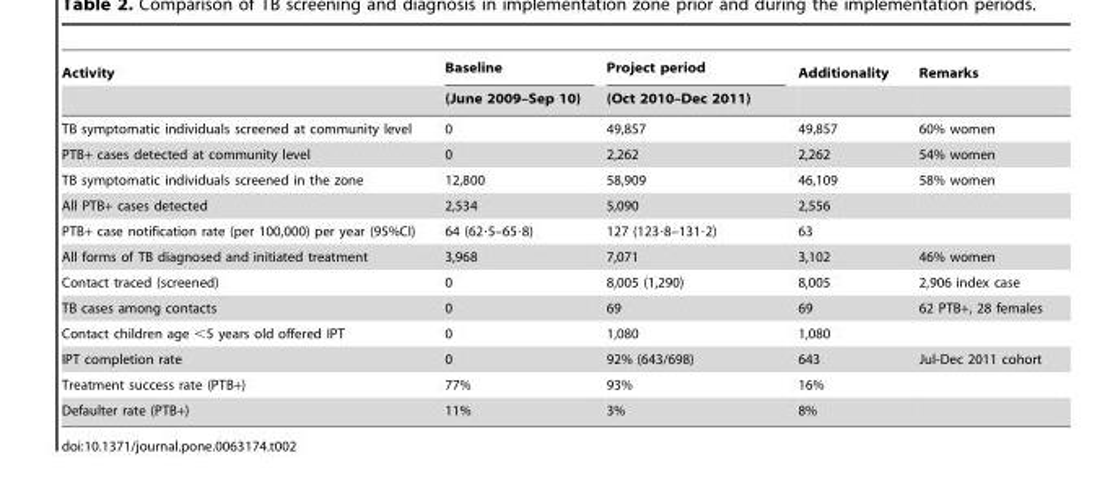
<table><thead><tr><td rowspan="2">Activity</td><td rowspan="2">Baseline (June 2009–Sep 10)</td><td rowspan="2">Project period (Oct 2010–Dec 2011)</td><td rowspan="2">Additionality</td><td rowspan="2">Remarks</td></tr><tr></tr></thead><tbody><tr><td>TB symptomatic individuals screened at community level</td><td>0</td><td>49,857</td><td>49,857</td><td>60% women</td></tr><tr><td>PTB+ cases detected at community level</td><td>0</td><td>2,262</td><td>2,262</td><td>54% women</td></tr><tr><td>TB symptomatic individuals screened in the zone</td><td>12,800</td><td>58,909</td><td>46,109</td><td>58% women</td></tr><tr><td>All PTB+ cases detected</td><td>2,534</td><td>5,090</td><td>2,556</td><td></td></tr><tr><td>PTB+ case notification rate (per 100,000) per year (95%CI)</td><td>64 (62·5–65·8)</td><td>127 (123·8–131·2)</td><td>63</td><td></td></tr><tr><td>All forms of TB diagnosed and initiated treatment</td><td>3,968</td><td>7,071</td><td>3,102</td><td>46% women</td></tr><tr><td>Contact traced (screened)</td><td>0</td><td>8,005 (1,290)</td><td>8,005</td><td>2,906 index case</td></tr><tr><td>TB cases among contacts</td><td>0</td><td>69</td><td>69</td><td>62 PTB+, 28 females</td></tr><tr><td>Contact children age &lt;5 years old offered IPT</td><td>0</td><td>1,080</td><td>1,080</td><td></td></tr><tr><td>IPT completion rate</td><td>0</td><td>92% (643/698)</td><td>643</td><td>Jul-Dec 2011 cohort</td></tr><tr><td>Treatment success rate (PTB+)</td><td>77%</td><td>93%</td><td>16%</td><td></td></tr><tr><td>Defaulter rate (PTB+)</td><td>11%</td><td>3%</td><td>8%</td><td></td></tr></tbody></table>